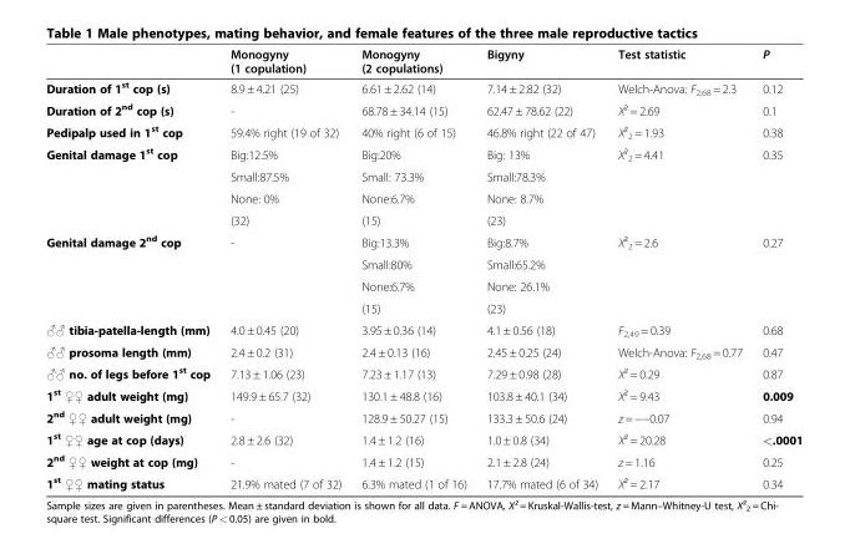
<table><thead><tr><td></td><td>Monogyny (1 copulation)</td><td>Monogyny (2 copulations)</td><td>Bigyny</td><td>Test statistic</td><td>P</td></tr></thead><tbody><tr><td>Duration of 1<sup>st</sup> cop (s)</td><td>8.9 ± 4.21 (25)</td><td>6.61 ± 2.62 (14)</td><td>7.14 ± 2.82 (32)</td><td>Welch-Anova: F<sub>2,68</sub> = 2.3</td><td>0.12</td></tr><tr><td>Duration of 2<sup>nd</sup> cop (s)</td><td>-</td><td>68.78 ± 34.14 (15)</td><td>62.47 ± 78.62 (22)</td><td>X² = 2.69</td><td>0.1</td></tr><tr><td>Pedipalp used in 1<sup>st</sup> cop</td><td>59.4% right (19 of 32)</td><td>40% right (6 of 15)</td><td>46.8% right (22 of 47)</td><td>X²<sub>2</sub> = 1.93</td><td>0.38</td></tr><tr><td rowspan="4">Genital damage 1<sup>st</sup> cop</td><td>Big:12.5%</td><td>Big:20%</td><td>Big: 13%</td><td>X²<sub>2</sub> = 4.41</td><td>0.35</td></tr><tr><td>Small:87.5%</td><td>Small: 73.3%</td><td>Small:78.3%</td><td></td><td></td></tr><tr><td>None: 0%</td><td>None:6.7%</td><td>None: 8.7%</td><td></td><td></td></tr><tr><td>(32)</td><td>(15)</td><td>(23)</td><td></td><td></td></tr><tr><td rowspan="4">Genital damage 2<sup>nd</sup> cop</td><td>-</td><td>Big:13.3%</td><td>Big:8.7%</td><td>X²<sub>2</sub> = 2.6</td><td>0.27</td></tr><tr><td></td><td>Small:80%</td><td>Small:65.2%</td><td></td><td></td></tr><tr><td></td><td>None:6.7%</td><td>None: 26.1%</td><td></td><td></td></tr><tr><td></td><td>(15)</td><td>(23)</td><td></td><td></td></tr><tr><td>♂♂ tibia-patella-length (mm)</td><td>4.0 ± 0.45 (20)</td><td>3.95 ± 0.36 (14)</td><td>4.1 ± 0.56 (18)</td><td>F<sub>2,49</sub> = 0.39</td><td>0.68</td></tr><tr><td>♂♂ prosoma length (mm)</td><td>2.4 ± 0.2 (31)</td><td>2.4 ± 0.13 (16)</td><td>2.45 ± 0.25 (24)</td><td>Welch-Anova: F<sub>2,68</sub> = 0.77</td><td>0.47</td></tr><tr><td>♂♂ no. of legs before 1<sup>st</sup> cop</td><td>7.13 ± 1.06 (23)</td><td>7.23 ± 1.17 (13)</td><td>7.29 ± 0.98 (28)</td><td>X² = 0.29</td><td>0.87</td></tr><tr><td>1<sup>st</sup> ♀♀ adult weight (mg)</td><td>149.9 ± 65.7 (32)</td><td>130.1 ± 48.8 (16)</td><td>103.8 ± 40.1 (34)</td><td>X² = 9.43</td><td>0.009</td></tr><tr><td>2<sup>nd</sup> ♀♀ adult weight (mg)</td><td>-</td><td>128.9 ± 50.27 (15)</td><td>133.3 ± 50.6 (24)</td><td>z = −−0.07</td><td>0.94</td></tr><tr><td>1<sup>st</sup> ♀♀ age at cop (days)</td><td>2.8 ± 2.6 (32)</td><td>1.4 ± 1.2 (16)</td><td>1.0 ± 0.8 (34)</td><td>X² = 20.28</td><td>&lt;.0001</td></tr><tr><td>2<sup>nd</sup> ♀♀ weight at cop (mg)</td><td>-</td><td>1.4 ± 1.2 (15)</td><td>2.1 ± 2.8 (24)</td><td>z = 1.16</td><td>0.25</td></tr><tr><td>1<sup>st</sup> ♀♀ mating status</td><td>21.9% mated (7 of 32)</td><td>6.3% mated (1 of 16)</td><td>17.7% mated (6 of 34)</td><td>X² = 2.17</td><td>0.34</td></tr></tbody></table>